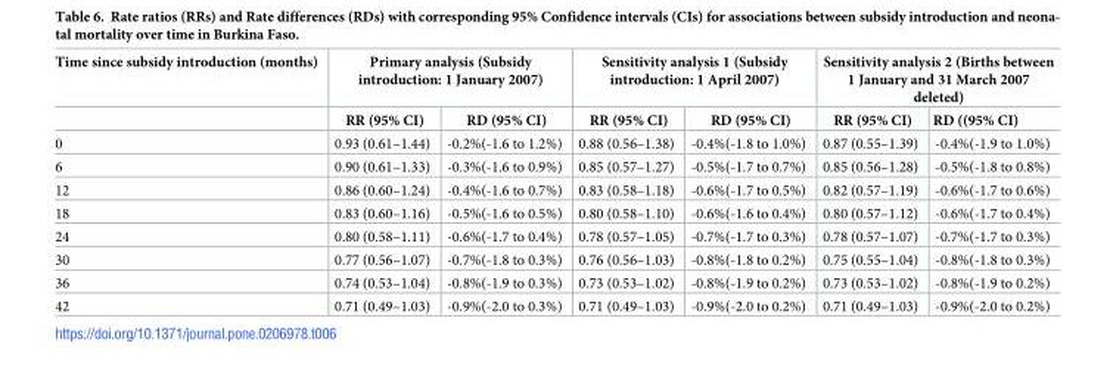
<table><thead><tr><td rowspan="2">Time since subsidy introduction (months)</td><td colspan="2">Primary analysis (Subsidy introduction: 1 January 2007)</td><td colspan="2">Sensitivity analysis 1 (Subsidy introduction: 1 April 2007)</td><td colspan="2">Sensitivity analysis 2 (Births between 1 January and 31 March 2007 deleted)</td></tr><tr><td>RR (95% CI)</td><td>RD (95% CI)</td><td>RR (95% CI)</td><td>RD (95% CI)</td><td>RR (95% CI)</td><td>RD ((95% CI)</td></tr></thead><tbody><tr><td>0</td><td>0.93 (0.61–1.44)</td><td>-0.2%(-1.6 to 1.2%)</td><td>0.88 (0.56–1.38)</td><td>-0.4%(-1.8 to 1.0%)</td><td>0.87 (0.55–1.39)</td><td>-0.4%(-1.9 to 1.0%)</td></tr><tr><td>6</td><td>0.90 (0.61–1.33)</td><td>-0.3%(-1.6 to 0.9%)</td><td>0.85 (0.57–1.27)</td><td>-0.5%(-1.7 to 0.7%)</td><td>0.85 (0.56–1.28)</td><td>-0.5%(-1.8 to 0.8%)</td></tr><tr><td>12</td><td>0.86 (0.60–1.24)</td><td>-0.4%(-1.6 to 0.7%)</td><td>0.83 (0.58–1.18)</td><td>-0.6%(-1.7 to 0.5%)</td><td>0.82 (0.57–1.19)</td><td>-0.6%(-1.7 to 0.6%)</td></tr><tr><td>18</td><td>0.83 (0.60–1.16)</td><td>-0.5%(-1.6 to 0.5%)</td><td>0.80 (0.58–1.10)</td><td>-0.6%(-1.6 to 0.4%)</td><td>0.80 (0.57–1.12)</td><td>-0.6%(-1.7 to 0.4%)</td></tr><tr><td>24</td><td>0.80 (0.58–1.11)</td><td>-0.6%(-1.7 to 0.4%)</td><td>0.78 (0.57–1.05)</td><td>-0.7%(-1.7 to 0.3%)</td><td>0.78 (0.57–1.07)</td><td>-0.7%(-1.7 to 0.3%)</td></tr><tr><td>30</td><td>0.77 (0.56–1.07)</td><td>-0.7%(-1.8 to 0.3%)</td><td>0.76 (0.56–1.03)</td><td>-0.8%(-1.8 to 0.2%)</td><td>0.75 (0.55–1.04)</td><td>-0.8%(-1.8 to 0.3%)</td></tr><tr><td>36</td><td>0.74 (0.53–1.04)</td><td>-0.8%(-1.9 to 0.3%)</td><td>0.73 (0.53–1.02)</td><td>-0.8%(-1.9 to 0.2%)</td><td>0.73 (0.53–1.02)</td><td>-0.8%(-1.9 to 0.2%)</td></tr><tr><td>42</td><td>0.71 (0.49–1.03)</td><td>-0.9%(-2.0 to 0.3%)</td><td>0.71 (0.49–1.03)</td><td>-0.9%(-2.0 to 0.2%)</td><td>0.71 (0.49–1.03)</td><td>-0.9%(-2.0 to 0.2%)</td></tr></tbody></table>